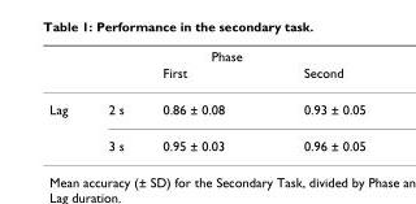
<table><thead><tr><td rowspan="2"></td><td rowspan="2"></td><td rowspan="2">Phase First</td><td rowspan="2">Second</td></tr><tr></tr></thead><tbody><tr><td rowspan="2">Lag</td><td>2 s</td><td>0.86 ± 0.08</td><td>0.93 ± 0.05</td></tr><tr><td>3 s</td><td>0.95 ± 0.03</td><td>0.96 ± 0.05</td></tr></tbody></table>